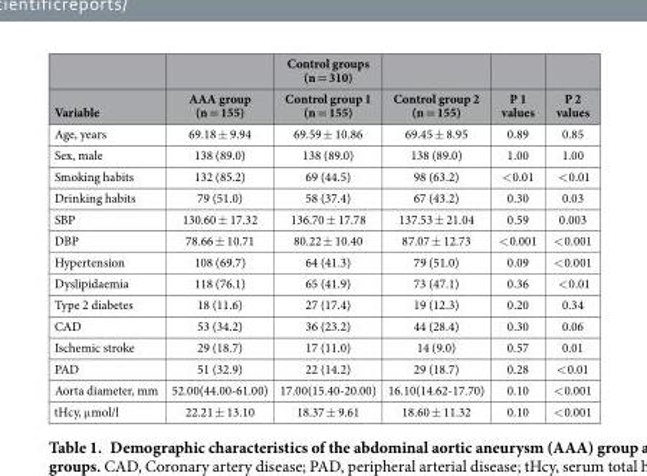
<table><thead><tr><td rowspan="2">Variable</td><td rowspan="2">AAA group (n = 155)</td><td rowspan="2">Control groups (n = 310) Control group 1 (n = 155)</td><td rowspan="2">Control group 2 (n = 155)</td><td rowspan="2">P 1 values</td><td rowspan="2">P 2 values</td></tr><tr></tr></thead><tbody><tr><td>Age, years</td><td>69.18 ± 9.94</td><td>69.59 ± 10.86</td><td>69.45 ± 8.95</td><td>0.89</td><td>0.85</td></tr><tr><td>Sex, male</td><td>138 (89.0)</td><td>138 (89.0)</td><td>138 (89.0)</td><td>1.00</td><td>1.00</td></tr><tr><td>Smoking habits</td><td>132 (85.2)</td><td>69 (44.5)</td><td>98 (63.2)</td><td>&lt; 0.01</td><td>&lt; 0.01</td></tr><tr><td>Drinking habits</td><td>79 (51.0)</td><td>58 (37.4)</td><td>67 (43.2)</td><td>0.30</td><td>0.03</td></tr><tr><td>SBP</td><td>130.60 ± 17.32</td><td>136.70 ± 17.78</td><td>137.53 ± 21.04</td><td>0.59</td><td>0.003</td></tr><tr><td>DBP</td><td>78.66 ± 10.71</td><td>80.22 ± 10.40</td><td>87.07 ± 12.73</td><td>&lt; 0.001</td><td>&lt; 0.001</td></tr><tr><td>Hypertension</td><td>108 (69.7)</td><td>64 (41.3)</td><td>79 (51.0)</td><td>0.09</td><td>&lt; 0.001</td></tr><tr><td>Dyslipidaemia</td><td>118 (76.1)</td><td>65 (41.9)</td><td>73 (47.1)</td><td>0.36</td><td>&lt; 0.01</td></tr><tr><td>Type 2 diabetes</td><td>18 (11.6)</td><td>27 (17.4)</td><td>19 (12.3)</td><td>0.20</td><td>0.34</td></tr><tr><td>CAD</td><td>53 (34.2)</td><td>36 (23.2)</td><td>44 (28.4)</td><td>0.30</td><td>0.06</td></tr><tr><td>Ischemic stroke</td><td>29 (18.7)</td><td>17 (11.0)</td><td>14 (9.0)</td><td>0.57</td><td>0.01</td></tr><tr><td>PAD</td><td>51 (32.9)</td><td>22 (14.2)</td><td>29 (18.7)</td><td>0.28</td><td>&lt; 0.01</td></tr><tr><td>Aorta diameter, mm</td><td>52.00(44.00-61.00)</td><td>17.00(15.40-20.00)</td><td>16.10(14.62-17.70)</td><td>0.10</td><td>&lt; 0.001</td></tr><tr><td>tHcy, μ mol/l</td><td>22.21 ± 13.10</td><td>18.37 ± 9.61</td><td>18.60 ± 11.32</td><td>0.10</td><td>&lt; 0.001</td></tr></tbody></table>